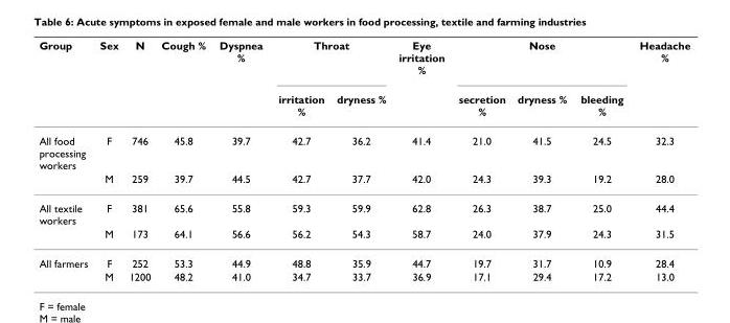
<table><thead><tr><td rowspan="2">Group</td><td rowspan="2">Sex</td><td rowspan="2">N</td><td rowspan="2">Cough %</td><td rowspan="2">Dyspnea %</td><td colspan="2">Throat</td><td rowspan="2">Eye irritation %</td><td colspan="3">Nose</td><td rowspan="2">Headache %</td></tr><tr><td>irritation %</td><td>dryness %</td><td>secretion %</td><td>dryness %</td><td>bleeding %</td></tr></thead><tbody><tr><td rowspan="2">All food processing workers</td><td>F</td><td>746</td><td>45.8</td><td>39.7</td><td>42.7</td><td>36.2</td><td>41.4</td><td>21.0</td><td>41.5</td><td>24.5</td><td>32.3</td></tr><tr><td>M</td><td>259</td><td>39.7</td><td>44.5</td><td>42.7</td><td>37.7</td><td>42.0</td><td>24.3</td><td>39.3</td><td>19.2</td><td>28.0</td></tr><tr><td rowspan="2">All textile workers</td><td>F</td><td>381</td><td>65.6</td><td>55.8</td><td>59.3</td><td>59.9</td><td>62.8</td><td>26.3</td><td>38.7</td><td>25.0</td><td>44.4</td></tr><tr><td>M</td><td>173</td><td>64.1</td><td>56.6</td><td>56.2</td><td>54.3</td><td>58.7</td><td>24.0</td><td>37.9</td><td>24.3</td><td>31.5</td></tr><tr><td rowspan="2">All farmers</td><td>F</td><td>252</td><td>53.3</td><td>44.9</td><td>48.8</td><td>35.9</td><td>44.7</td><td>19.7</td><td>31.7</td><td>10.9</td><td>28.4</td></tr><tr><td>M</td><td>1200</td><td>48.2</td><td>41.0</td><td>34.7</td><td>33.7</td><td>36.9</td><td>17.1</td><td>29.4</td><td>17.2</td><td>13.0</td></tr></tbody></table>